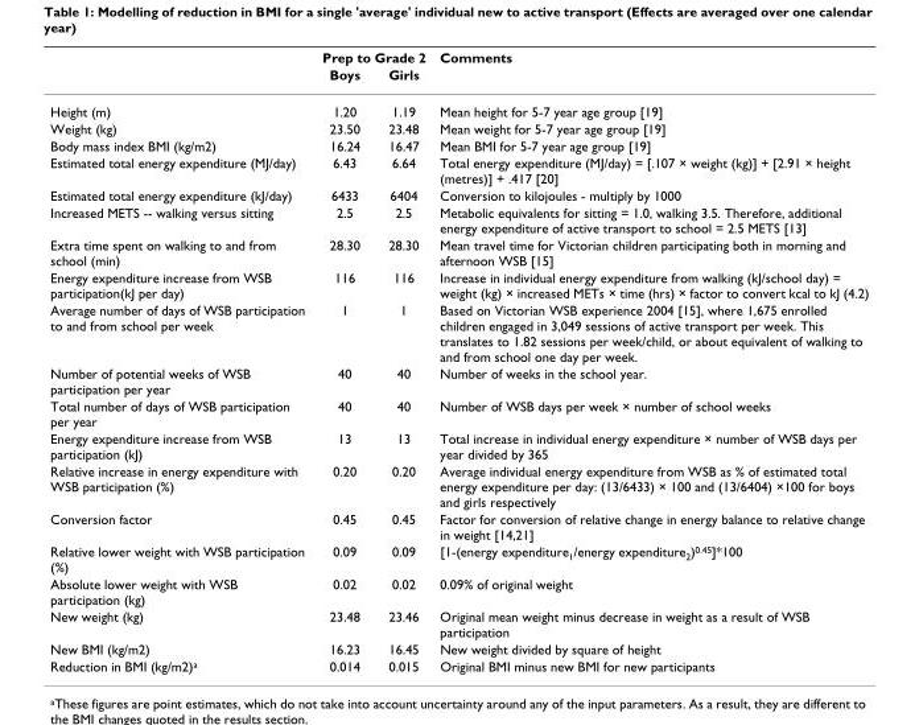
<table><thead><tr><td rowspan="2"></td><td colspan="2">Prep to Grade 2</td><td rowspan="2">Comments</td></tr><tr><td>Boys</td><td>Girls</td></tr></thead><tbody><tr><td>Height (m)</td><td>1.20</td><td>1.19</td><td>Mean height for 5-7 year age group [19]</td></tr><tr><td>Weight (kg)</td><td>23.50</td><td>23.48</td><td>Mean weight for 5-7 year age group [19]</td></tr><tr><td>Body mass index BMI (kg/m2)</td><td>16.24</td><td>16.47</td><td>Mean BMI for 5-7 year age group [19]</td></tr><tr><td>Estimated total energy expenditure (MJ/day)</td><td>6.43</td><td>6.64</td><td>Total energy expenditure (MJ/day) = [.107 × weight (kg)] + [2.91 × height (metres)] + .417 [20]</td></tr><tr><td>Estimated total energy expenditure (kJ/day)</td><td>6433</td><td>6404</td><td>Conversion to kilojoules - multiply by 1000</td></tr><tr><td>Increased METS -- walking versus sitting</td><td>2.5</td><td>2.5</td><td>Metabolic equivalents for sitting = 1.0, walking 3.5. Therefore, additional energy expenditure of active transport to school = 2.5 METS [13]</td></tr><tr><td>Extra time spent on walking to and from school (min)</td><td>28.30</td><td>28.30</td><td>Mean travel time for Victorian children participating both in morning and afternoon WSB [15]</td></tr><tr><td>Energy expenditure increase from WSB participation(kJ per day)</td><td>116</td><td>116</td><td>Increase in individual energy expenditure from walking (kJ/school day) = weight (kg) × increased METs × time (hrs) × factor to convert kcal to kJ (4.2)</td></tr><tr><td>Average number of days of WSB participation to and from school per week</td><td>1</td><td>1</td><td>Based on Victorian WSB experience 2004 [15], where 1,675 enrolled children engaged in 3,049 sessions of active transport per week. This translates to 1.82 sessions per week/child, or about equivalent of walking to and from school one day per week.</td></tr><tr><td>Number of potential weeks of WSB participation per year</td><td>40</td><td>40</td><td>Number of weeks in the school year.</td></tr><tr><td>Total number of days of WSB participation per year</td><td>40</td><td>40</td><td>Number of WSB days per week × number of school weeks</td></tr><tr><td>Energy expenditure increase from WSB participation (kJ)</td><td>13</td><td>13</td><td>Total increase in individual energy expenditure × number of WSB days per year divided by 365</td></tr><tr><td>Relative increase in energy expenditure with WSB participation (%)</td><td>0.20</td><td>0.20</td><td>Average individual energy expenditure from WSB as % of estimated total energy expenditure per day: (13/6433) × 100 and (13/6404) ×100 for boys and girls respectively</td></tr><tr><td>Conversion factor</td><td>0.45</td><td>0.45</td><td>Factor for conversion of relative change in energy balance to relative change in weight [14,21]</td></tr><tr><td>Relative lower weight with WSB participation (%)</td><td>0.09</td><td>0.09</td><td>[1-(energy expenditure<sub>1</sub>/energy expenditure<sub>2</sub>)<sup>0.45</sup>]*100</td></tr><tr><td>Absolute lower weight with WSB participation (kg)</td><td>0.02</td><td>0.02</td><td>0.09% of original weight</td></tr><tr><td>New weight (kg)</td><td>23.48</td><td>23.46</td><td>Original mean weight minus decrease in weight as a result of WSB participation</td></tr><tr><td>New BMI (kg/m2)</td><td>16.23</td><td>16.45</td><td>New weight divided by square of height</td></tr><tr><td>Reduction in BMI (kg/m2)<sup>a</sup></td><td>0.014</td><td>0.015</td><td>Original BMI minus new BMI for new participants</td></tr></tbody></table>